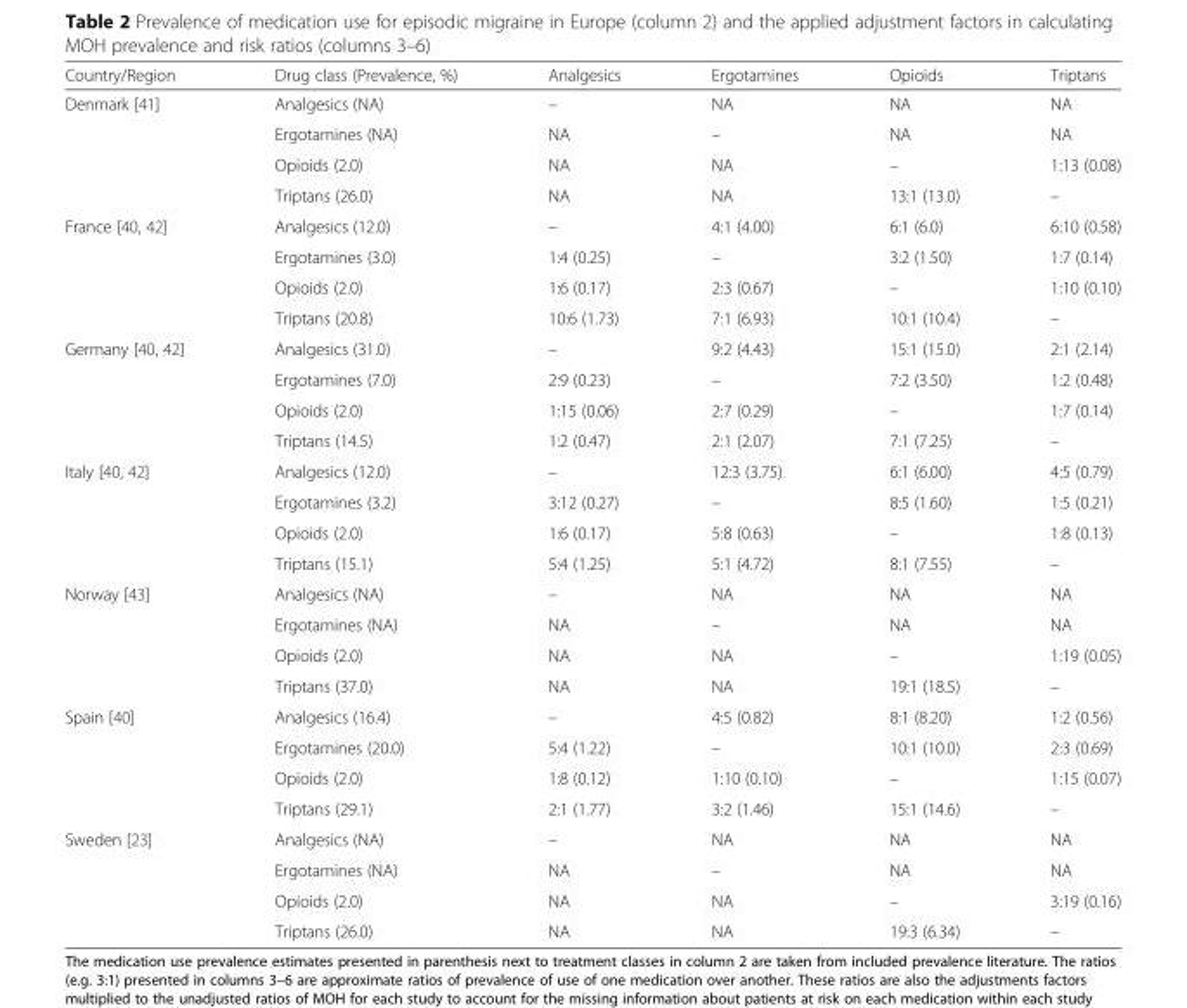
<table><thead><tr><td>Country/Region</td><td>Drug class (Prevalence, %)</td><td>Analgesics</td><td>Ergotamines</td><td>Opioids</td><td>Triptans</td></tr></thead><tbody><tr><td rowspan="4">Denmark [41]</td><td>Analgesics (NA)</td><td>–</td><td>NA</td><td>NA</td><td>NA</td></tr><tr><td>Ergotamines (NA)</td><td>NA</td><td>–</td><td>NA</td><td>NA</td></tr><tr><td>Opioids (2.0)</td><td>NA</td><td>NA</td><td>–</td><td>1:13 (0.08)</td></tr><tr><td>Triptans (26.0)</td><td>NA</td><td>NA</td><td>13:1 (13.0)</td><td>–</td></tr><tr><td rowspan="4">France [40, 42]</td><td>Analgesics (12.0)</td><td>–</td><td>4:1 (4.00)</td><td>6:1 (6.0)</td><td>6:10 (0.58)</td></tr><tr><td>Ergotamines (3.0)</td><td>1:4 (0.25)</td><td>–</td><td>3:2 (1.50)</td><td>1:7 (0.14)</td></tr><tr><td>Opioids (2.0)</td><td>1:6 (0.17)</td><td>2:3 (0.67)</td><td>–</td><td>1:10 (0.10)</td></tr><tr><td>Triptans (20.8)</td><td>10:6 (1.73)</td><td>7:1 (6.93)</td><td>10:1 (10.4)</td><td>–</td></tr><tr><td rowspan="4">Germany [40, 42]</td><td>Analgesics (31.0)</td><td>–</td><td>9:2 (4.43)</td><td>15:1 (15.0)</td><td>2:1 (2.14)</td></tr><tr><td>Ergotamines (7.0)</td><td>2:9 (0.23)</td><td>–</td><td>7:2 (3.50)</td><td>1:2 (0.48)</td></tr><tr><td>Opioids (2.0)</td><td>1:15 (0.06)</td><td>2:7 (0.29)</td><td>–</td><td>1:7 (0.14)</td></tr><tr><td>Triptans (14.5)</td><td>1:2 (0.47)</td><td>2:1 (2.07)</td><td>7:1 (7.25)</td><td>–</td></tr><tr><td rowspan="4">Italy [40, 42]</td><td>Analgesics (12.0)</td><td>–</td><td>12:3 (3.75)</td><td>6:1 (6.00)</td><td>4:5 (0.79)</td></tr><tr><td>Ergotamines (3.2)</td><td>3:12 (0.27)</td><td>–</td><td>8:5 (1.60)</td><td>1:5 (0.21)</td></tr><tr><td>Opioids (2.0)</td><td>1:6 (0.17)</td><td>5:8 (0.63)</td><td>–</td><td>1:8 (0.13)</td></tr><tr><td>Triptans (15.1)</td><td>5:4 (1.25)</td><td>5:1 (4.72)</td><td>8:1 (7.55)</td><td>–</td></tr><tr><td rowspan="4">Norway [43]</td><td>Analgesics (NA)</td><td>–</td><td>NA</td><td>NA</td><td>NA</td></tr><tr><td>Ergotamines (NA)</td><td>NA</td><td>–</td><td>NA</td><td>NA</td></tr><tr><td>Opioids (2.0)</td><td>NA</td><td>NA</td><td>–</td><td>1:19 (0.05)</td></tr><tr><td>Triptans (37.0)</td><td>NA</td><td>NA</td><td>19:1 (18.5)</td><td>–</td></tr><tr><td rowspan="4">Spain [40]</td><td>Analgesics (16.4)</td><td>–</td><td>4:5 (0.82)</td><td>8:1 (8.20)</td><td>1:2 (0.56)</td></tr><tr><td>Ergotamines (20.0)</td><td>5:4 (1.22)</td><td>–</td><td>10:1 (10.0)</td><td>2:3 (0.69)</td></tr><tr><td>Opioids (2.0)</td><td>1:8 (0.12)</td><td>1:10 (0.10)</td><td>–</td><td>1:15 (0.07)</td></tr><tr><td>Triptans (29.1)</td><td>2:1 (1.77)</td><td>3:2 (1.46)</td><td>15:1 (14.6)</td><td>–</td></tr><tr><td rowspan="4">Sweden [23]</td><td>Analgesics (NA)</td><td>–</td><td>NA</td><td>NA</td><td>NA</td></tr><tr><td>Ergotamines (NA)</td><td>NA</td><td>–</td><td>NA</td><td>NA</td></tr><tr><td>Opioids (2.0)</td><td>NA</td><td>NA</td><td>–</td><td>3:19 (0.16)</td></tr><tr><td>Triptans (26.0)</td><td>NA</td><td>NA</td><td>19:3 (6.34)</td><td>–</td></tr></tbody></table>